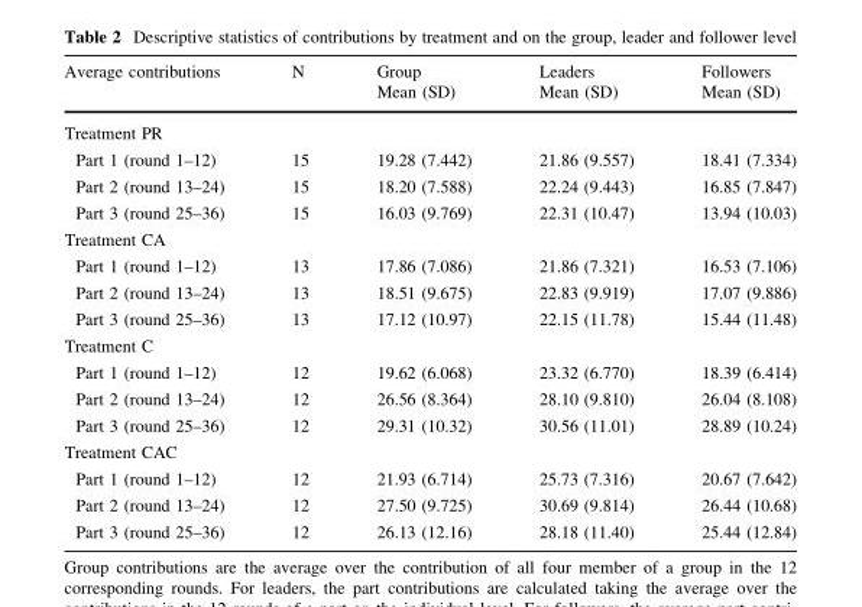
<table><thead><tr><td rowspan="2">Average contributions</td><td rowspan="2">N</td><td rowspan="2">Group Mean (SD)</td><td rowspan="2">Leaders Mean (SD)</td><td rowspan="2">Followers Mean (SD)</td></tr><tr></tr></thead><tbody><tr><td colspan="5">Treatment PR</td></tr><tr><td>Part 1 (round 1–12)</td><td>15</td><td>19.28 (7.442)</td><td>21.86 (9.557)</td><td>18.41 (7.334)</td></tr><tr><td>Part 2 (round 13–24)</td><td>15</td><td>18.20 (7.588)</td><td>22.24 (9.443)</td><td>16.85 (7.847)</td></tr><tr><td>Part 3 (round 25–36)</td><td>15</td><td>16.03 (9.769)</td><td>22.31 (10.47)</td><td>13.94 (10.03)</td></tr><tr><td colspan="5">Treatment CA</td></tr><tr><td>Part 1 (round 1–12)</td><td>13</td><td>17.86 (7.086)</td><td>21.86 (7.321)</td><td>16.53 (7.106)</td></tr><tr><td>Part 2 (round 13–24)</td><td>13</td><td>18.51 (9.675)</td><td>22.83 (9.919)</td><td>17.07 (9.886)</td></tr><tr><td>Part 3 (round 25–36)</td><td>13</td><td>17.12 (10.97)</td><td>22.15 (11.78)</td><td>15.44 (11.48)</td></tr><tr><td colspan="5">Treatment C</td></tr><tr><td>Part 1 (round 1–12)</td><td>12</td><td>19.62 (6.068)</td><td>23.32 (6.770)</td><td>18.39 (6.414)</td></tr><tr><td>Part 2 (round 13–24)</td><td>12</td><td>26.56 (8.364)</td><td>28.10 (9.810)</td><td>26.04 (8.108)</td></tr><tr><td>Part 3 (round 25–36)</td><td>12</td><td>29.31 (10.32)</td><td>30.56 (11.01)</td><td>28.89 (10.24)</td></tr><tr><td colspan="5">Treatment CAC</td></tr><tr><td>Part 1 (round 1–12)</td><td>12</td><td>21.93 (6.714)</td><td>25.73 (7.316)</td><td>20.67 (7.642)</td></tr><tr><td>Part 2 (round 13–24)</td><td>12</td><td>27.50 (9.725)</td><td>30.69 (9.814)</td><td>26.44 (10.68)</td></tr><tr><td>Part 3 (round 25–36)</td><td>12</td><td>26.13 (12.16)</td><td>28.18 (11.40)</td><td>25.44 (12.84)</td></tr></tbody></table>